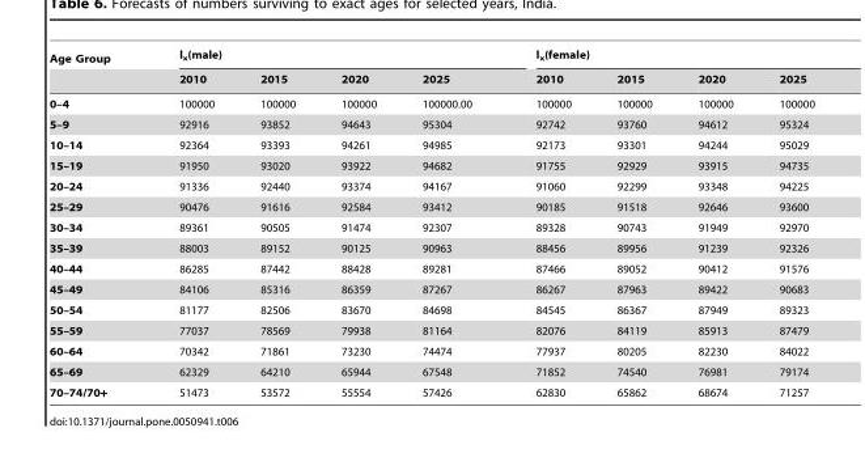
<table><thead><tr><td rowspan="2">Age Group</td><td colspan="4">l<sub>x</sub>(male)</td><td colspan="4">l<sub>x</sub>(female)</td></tr><tr><td>2010</td><td>2015</td><td>2020</td><td>2025</td><td>2010</td><td>2015</td><td>2020</td><td>2025</td></tr></thead><tbody><tr><td>0–4</td><td>100000</td><td>100000</td><td>100000</td><td>100000.00</td><td>100000</td><td>100000</td><td>100000</td><td>100000</td></tr><tr><td>5–9</td><td>92916</td><td>93852</td><td>94643</td><td>95304</td><td>92742</td><td>93760</td><td>94612</td><td>95324</td></tr><tr><td>10–14</td><td>92364</td><td>93393</td><td>94261</td><td>94985</td><td>92173</td><td>93301</td><td>94244</td><td>95029</td></tr><tr><td>15–19</td><td>91950</td><td>93020</td><td>93922</td><td>94682</td><td>91755</td><td>92929</td><td>93915</td><td>94735</td></tr><tr><td>20–24</td><td>91336</td><td>92440</td><td>93374</td><td>94167</td><td>91060</td><td>92299</td><td>93348</td><td>94225</td></tr><tr><td>25–29</td><td>90476</td><td>91616</td><td>92584</td><td>93412</td><td>90185</td><td>91518</td><td>92646</td><td>93600</td></tr><tr><td>30–34</td><td>89361</td><td>90505</td><td>91474</td><td>92307</td><td>89328</td><td>90743</td><td>91949</td><td>92970</td></tr><tr><td>35–39</td><td>88003</td><td>89152</td><td>90125</td><td>90963</td><td>88456</td><td>89956</td><td>91239</td><td>92326</td></tr><tr><td>40–44</td><td>86285</td><td>87442</td><td>88428</td><td>89281</td><td>87466</td><td>89052</td><td>90412</td><td>91576</td></tr><tr><td>45–49</td><td>84106</td><td>85316</td><td>86359</td><td>87267</td><td>86267</td><td>87963</td><td>89422</td><td>90683</td></tr><tr><td>50–54</td><td>81177</td><td>82506</td><td>83670</td><td>84698</td><td>84545</td><td>86367</td><td>87949</td><td>89323</td></tr><tr><td>55–59</td><td>77037</td><td>78569</td><td>79938</td><td>81164</td><td>82076</td><td>84119</td><td>85913</td><td>87479</td></tr><tr><td>60–64</td><td>70342</td><td>71861</td><td>73230</td><td>74474</td><td>77937</td><td>80205</td><td>82230</td><td>84022</td></tr><tr><td>65–69</td><td>62329</td><td>64210</td><td>65944</td><td>67548</td><td>71852</td><td>74540</td><td>76981</td><td>79174</td></tr><tr><td>70–74/70+</td><td>51473</td><td>53572</td><td>55554</td><td>57426</td><td>62830</td><td>65862</td><td>68674</td><td>71257</td></tr></tbody></table>